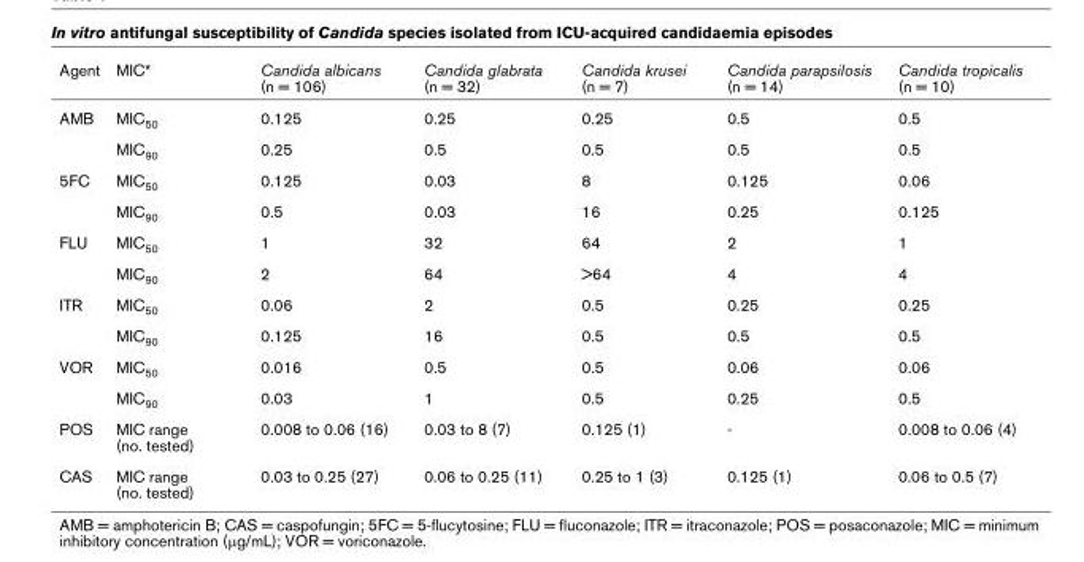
<table><thead><tr><td>Agent</td><td>MIC*</td><td>Candida albicans (n = 106)</td><td>Candida glabrata (n = 32)</td><td>Candida krusei (n = 7)</td><td>Candida parapsilosis (n = 14)</td><td>Candida tropicalis (n = 10)</td></tr></thead><tbody><tr><td rowspan="2">AMB</td><td>MIC<sub>50</sub></td><td>0.125</td><td>0.25</td><td>0.25</td><td>0.5</td><td>0.5</td></tr><tr><td>MIC<sub>90</sub></td><td>0.25</td><td>0.5</td><td>0.5</td><td>0.5</td><td>0.5</td></tr><tr><td rowspan="2">5FC</td><td>MIC<sub>50</sub></td><td>0.125</td><td>0.03</td><td>8</td><td>0.125</td><td>0.06</td></tr><tr><td>MIC<sub>90</sub></td><td>0.5</td><td>0.03</td><td>16</td><td>0.25</td><td>0.125</td></tr><tr><td rowspan="2">FLU</td><td>MIC<sub>50</sub></td><td>1</td><td>32</td><td>64</td><td>2</td><td>1</td></tr><tr><td>MIC<sub>90</sub></td><td>2</td><td>64</td><td>&gt;64</td><td>4</td><td>4</td></tr><tr><td rowspan="2">ITR</td><td>MIC<sub>50</sub></td><td>0.06</td><td>2</td><td>0.5</td><td>0.25</td><td>0.25</td></tr><tr><td>MIC<sub>90</sub></td><td>0.125</td><td>16</td><td>0.5</td><td>0.5</td><td>0.5</td></tr><tr><td rowspan="2">VOR</td><td>MIC<sub>50</sub></td><td>0.016</td><td>0.5</td><td>0.5</td><td>0.06</td><td>0.06</td></tr><tr><td>MIC<sub>90</sub></td><td>0.03</td><td>1</td><td>0.5</td><td>0.25</td><td>0.5</td></tr><tr><td>POS</td><td>MIC range (no. tested)</td><td>0.008 to 0.06 (16)</td><td>0.03 to 8 (7)</td><td>0.125 (1)</td><td>-</td><td>0.008 to 0.06 (4)</td></tr><tr><td>CAS</td><td>MIC range (no. tested)</td><td>0.03 to 0.25 (27)</td><td>0.06 to 0.25 (11)</td><td>0.25 to 1 (3)</td><td>0.125 (1)</td><td>0.06 to 0.5 (7)</td></tr></tbody></table>